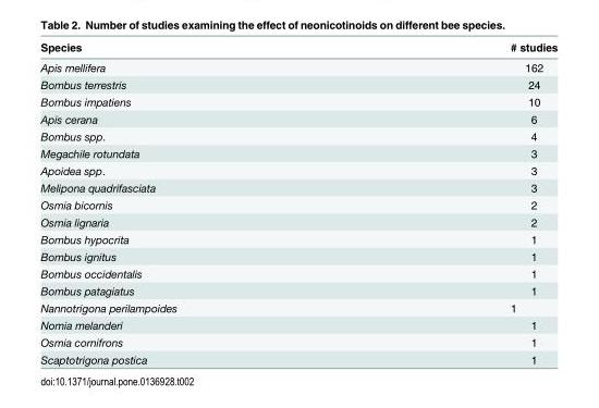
<table><thead><tr><td>Species</td><td># studies</td></tr></thead><tbody><tr><td>Apis mellifera</td><td>162</td></tr><tr><td>Bombus terrestris</td><td>24</td></tr><tr><td>Bombus impatiens</td><td>10</td></tr><tr><td>Apis cerana</td><td>6</td></tr><tr><td>Bombus spp.</td><td>4</td></tr><tr><td>Megachile rotundata</td><td>3</td></tr><tr><td>Apoidea spp.</td><td>3</td></tr><tr><td>Melipona quadrifasciata</td><td>3</td></tr><tr><td>Osmia bicornis</td><td>2</td></tr><tr><td>Osmia lignaria</td><td>2</td></tr><tr><td>Bombus hypocrita</td><td>1</td></tr><tr><td>Bombus ignitus</td><td>1</td></tr><tr><td>Bombus occidentalis</td><td>1</td></tr><tr><td>Bombus patagiatus</td><td>1</td></tr><tr><td>Nannotrigona perilampoides</td><td>1</td></tr><tr><td>Nomia melanderi</td><td>1</td></tr><tr><td>Osmia cornifrons</td><td>1</td></tr><tr><td>Scaptotrigona postica</td><td>1</td></tr></tbody></table>